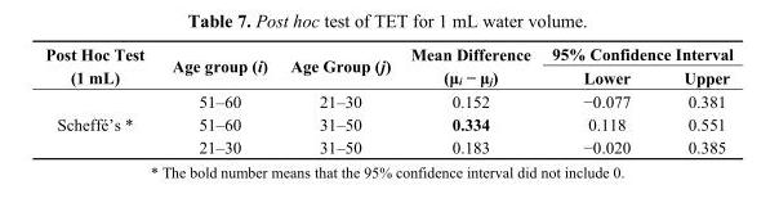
<table><thead><tr><td rowspan="2">Post Hoc Test (1 mL)</td><td rowspan="2">Age group (i)</td><td rowspan="2">Age Group (j)</td><td rowspan="2">Mean Difference (μ<sub>i</sub> − μ<sub>j</sub>)</td><td colspan="2">95% Confidence Interval</td></tr><tr><td>Lower</td><td>Upper</td></tr></thead><tbody><tr><td rowspan="3">Scheffé’s *</td><td>51–60</td><td>21–30</td><td>0.152</td><td>−0.077</td><td>0.381</td></tr><tr><td>51–60</td><td>31–50</td><td>0.334</td><td>0.118</td><td>0.551</td></tr><tr><td>21–30</td><td>31–50</td><td>0.183</td><td>−0.020</td><td>0.385</td></tr></tbody></table>